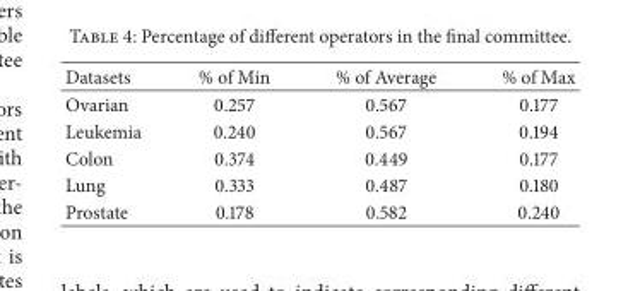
<table><thead><tr><td>Datasets</td><td>% of Min</td><td>% of Average</td><td>% of Max</td></tr></thead><tbody><tr><td>Ovarian</td><td>0.257</td><td>0.567</td><td>0.177</td></tr><tr><td>Leukemia</td><td>0.240</td><td>0.567</td><td>0.194</td></tr><tr><td>Colon</td><td>0.374</td><td>0.449</td><td>0.177</td></tr><tr><td>Lung</td><td>0.333</td><td>0.487</td><td>0.180</td></tr><tr><td>Prostate</td><td>0.178</td><td>0.582</td><td>0.240</td></tr></tbody></table>